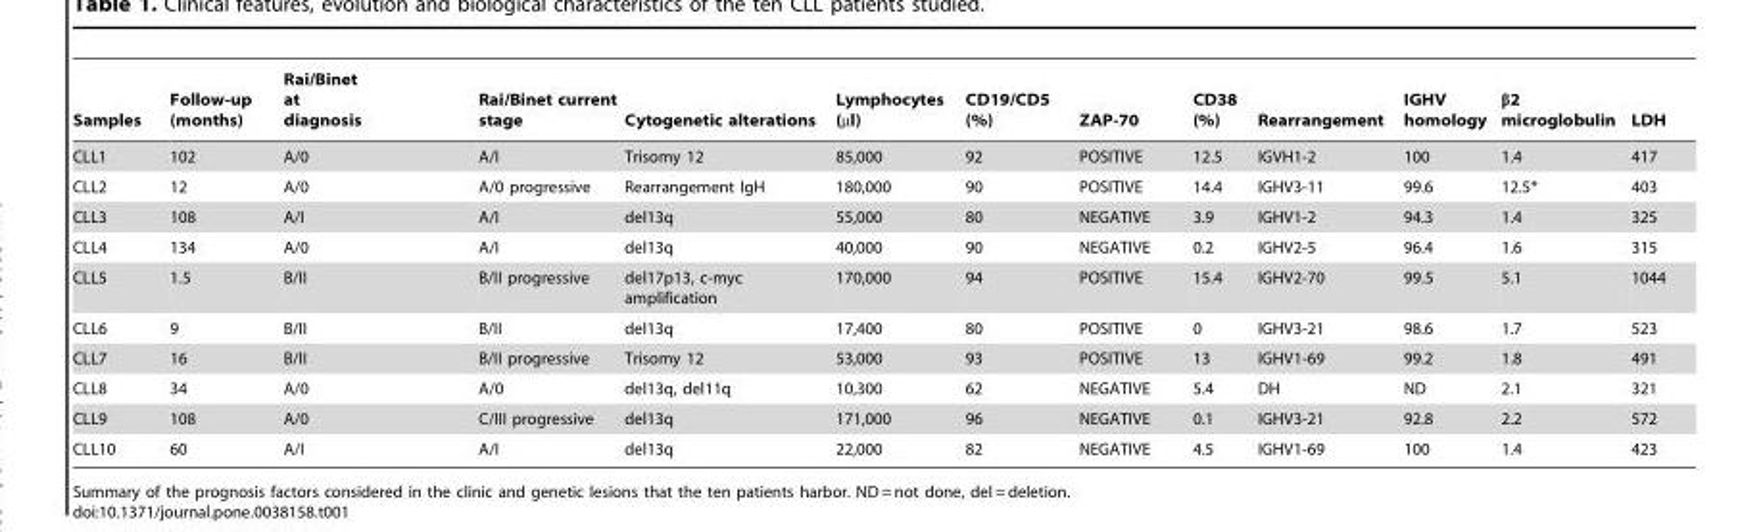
<table><thead><tr><td>Samples</td><td>Follow-up (months)</td><td>Rai/Binet at diagnosis</td><td>Rai/Binet current stage</td><td>Cytogenetic alterations</td><td>Lymphocytes (µl)</td><td>CD19/CD5 (%)</td><td>ZAP-70</td><td>CD38 (%)</td><td>Rearrangement</td><td>IGHV homology</td><td>β2 microglobulin</td><td>LDH</td></tr></thead><tbody><tr><td>CLL1</td><td>102</td><td>A/0</td><td>A/I</td><td>Trisomy 12</td><td>85,000</td><td>92</td><td>POSITIVE</td><td>12.5</td><td>IGVH1-2</td><td>100</td><td>1.4</td><td>417</td></tr><tr><td>CLL2</td><td>12</td><td>A/0</td><td>A/0 progressive</td><td>Rearrangement IgH</td><td>180,000</td><td>90</td><td>POSITIVE</td><td>14.4</td><td>IGHV3-11</td><td>99.6</td><td>12.5*</td><td>403</td></tr><tr><td>CLL3</td><td>108</td><td>A/I</td><td>A/I</td><td>del13q</td><td>55,000</td><td>80</td><td>NEGATIVE</td><td>3.9</td><td>IGHV1-2</td><td>94.3</td><td>1.4</td><td>325</td></tr><tr><td>CLL4</td><td>134</td><td>A/0</td><td>A/I</td><td>del13q</td><td>40,000</td><td>90</td><td>NEGATIVE</td><td>0.2</td><td>IGHV2-5</td><td>96.4</td><td>1.6</td><td>315</td></tr><tr><td>CLL5</td><td>1.5</td><td>B/II</td><td>B/II progressive</td><td>del17p13, c-myc amplification</td><td>170,000</td><td>94</td><td>POSITIVE</td><td>15.4</td><td>IGHV2-70</td><td>99.5</td><td>5.1</td><td>1044</td></tr><tr><td>CLL6</td><td>9</td><td>B/II</td><td>B/II</td><td>del13q</td><td>17,400</td><td>80</td><td>POSITIVE</td><td>0</td><td>IGHV3-21</td><td>98.6</td><td>1.7</td><td>523</td></tr><tr><td>CLL7</td><td>16</td><td>B/II</td><td>B/II progressive</td><td>Trisomy 12</td><td>53,000</td><td>93</td><td>POSITIVE</td><td>13</td><td>IGHV1-69</td><td>99.2</td><td>1.8</td><td>491</td></tr><tr><td>CLL8</td><td>34</td><td>A/0</td><td>A/0</td><td>del13q, del11q</td><td>10,300</td><td>62</td><td>NEGATIVE</td><td>5.4</td><td>DH</td><td>ND</td><td>2.1</td><td>321</td></tr><tr><td>CLL9</td><td>108</td><td>A/0</td><td>C/III progressive</td><td>del13q</td><td>171,000</td><td>96</td><td>NEGATIVE</td><td>0.1</td><td>IGHV3-21</td><td>92.8</td><td>2.2</td><td>572</td></tr><tr><td>CLL10</td><td>60</td><td>A/I</td><td>A/I</td><td>del13q</td><td>22,000</td><td>82</td><td>NEGATIVE</td><td>4.5</td><td>IGHV1-69</td><td>100</td><td>1.4</td><td>423</td></tr></tbody></table>